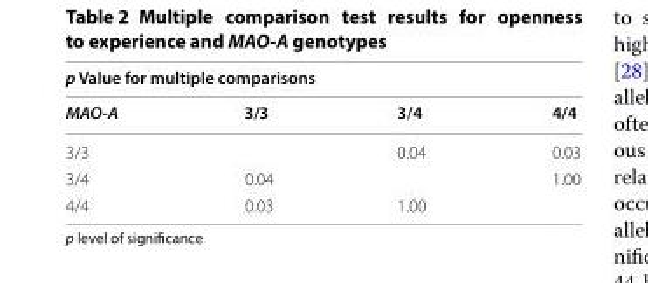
<table><thead><tr><td colspan="4">p Value for multiple comparisons</td></tr><tr><td>MAO-A</td><td>3/3</td><td>3/4</td><td>4/4</td></tr></thead><tbody><tr><td>3/3</td><td></td><td>0.04</td><td>0.03</td></tr><tr><td>3/4</td><td>0.04</td><td></td><td>1.00</td></tr><tr><td>4/4</td><td>0.03</td><td>1.00</td><td></td></tr></tbody></table>